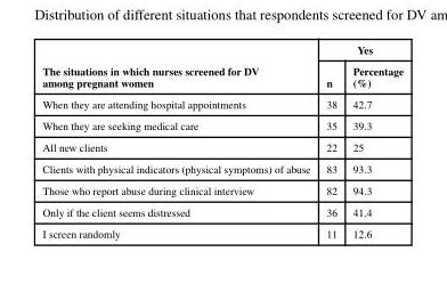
<table><thead><tr><td rowspan="2">The situations in which nurses screened for DV among pregnant women</td><td colspan="2">Yes</td></tr><tr><td>n</td><td>Percentage (%)</td></tr></thead><tbody><tr><td>When they are attending hospital appointments</td><td>38</td><td>42.7</td></tr><tr><td>When they are seeking medical care</td><td>35</td><td>39.3</td></tr><tr><td>All new clients</td><td>22</td><td>25</td></tr><tr><td>Clients with physical indicators (physical symptoms) of abuse</td><td>83</td><td>93.3</td></tr><tr><td>Those who report abuse during clinical interview</td><td>82</td><td>94.3</td></tr><tr><td>Only if the client seems distressed</td><td>36</td><td>41.4</td></tr><tr><td>I screen randomly</td><td>11</td><td>12.6</td></tr></tbody></table>